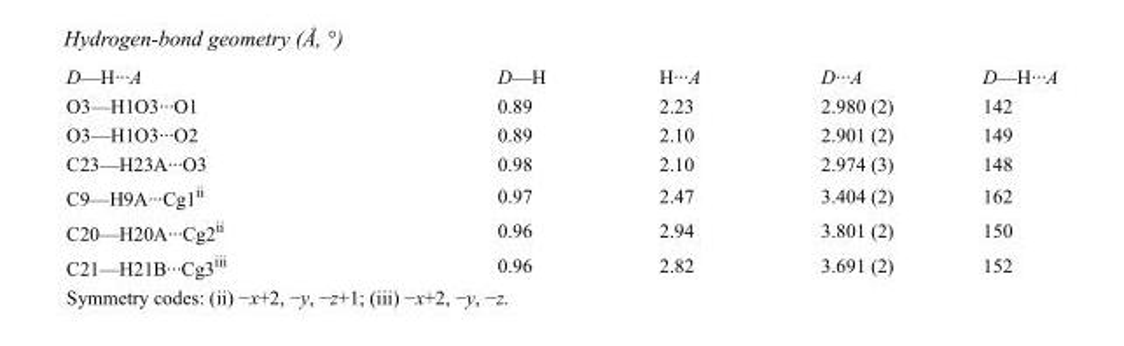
<table><tbody><tr><td>D—H···A</td><td>D—H</td><td>H···A</td><td>D···A</td><td>D—H···A</td></tr><tr><td>O3—H1O3···O1</td><td>0.89</td><td>2.23</td><td>2.980 (2)</td><td>142</td></tr><tr><td>O3—H1O3···O2</td><td>0.89</td><td>2.10</td><td>2.901 (2)</td><td>149</td></tr><tr><td>C23—H23A···O3</td><td>0.98</td><td>2.10</td><td>2.974 (3)</td><td>148</td></tr><tr><td>C9—H9A···Cg1<sup>ii</sup></td><td>0.97</td><td>2.47</td><td>3.404 (2)</td><td>162</td></tr><tr><td>C20—H20A···Cg2<sup>ii</sup></td><td>0.96</td><td>2.94</td><td>3.801 (2)</td><td>150</td></tr><tr><td>C21—H21B···Cg3<sup>iii</sup></td><td>0.96</td><td>2.82</td><td>3.691 (2)</td><td>152</td></tr></tbody></table>